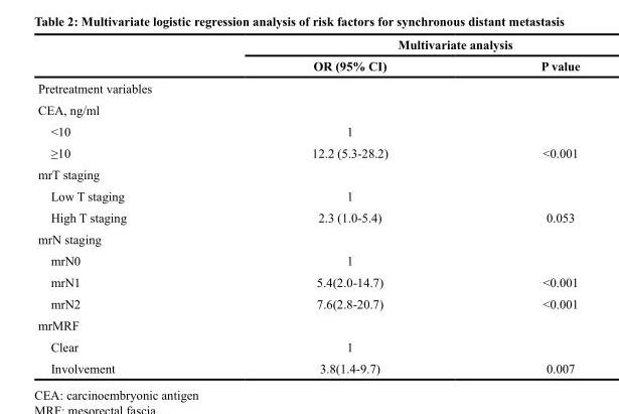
<table><thead><tr><td rowspan="2"></td><td colspan="2">Multivariate analysis</td></tr><tr><td>OR (95% CI)</td><td>P value</td></tr></thead><tbody><tr><td colspan="3">Pretreatment variables</td></tr><tr><td colspan="3">CEA, ng/ml</td></tr><tr><td>&lt;10</td><td>1</td><td></td></tr><tr><td>≥10</td><td>12.2 (5.3-28.2)</td><td>&lt;0.001</td></tr><tr><td colspan="3">mrT staging</td></tr><tr><td>Low T staging</td><td>1</td><td></td></tr><tr><td>High T staging</td><td>2.3 (1.0-5.4)</td><td>0.053</td></tr><tr><td colspan="3">mrN staging</td></tr><tr><td>mrN0</td><td>1</td><td></td></tr><tr><td>mrN1</td><td>5.4(2.0-14.7)</td><td>&lt;0.001</td></tr><tr><td>mrN2</td><td>7.6(2.8-20.7)</td><td>&lt;0.001</td></tr><tr><td colspan="3">mrMRF</td></tr><tr><td>Clear</td><td>1</td><td></td></tr><tr><td>Involvement</td><td>3.8(1.4-9.7)</td><td>0.007</td></tr></tbody></table>